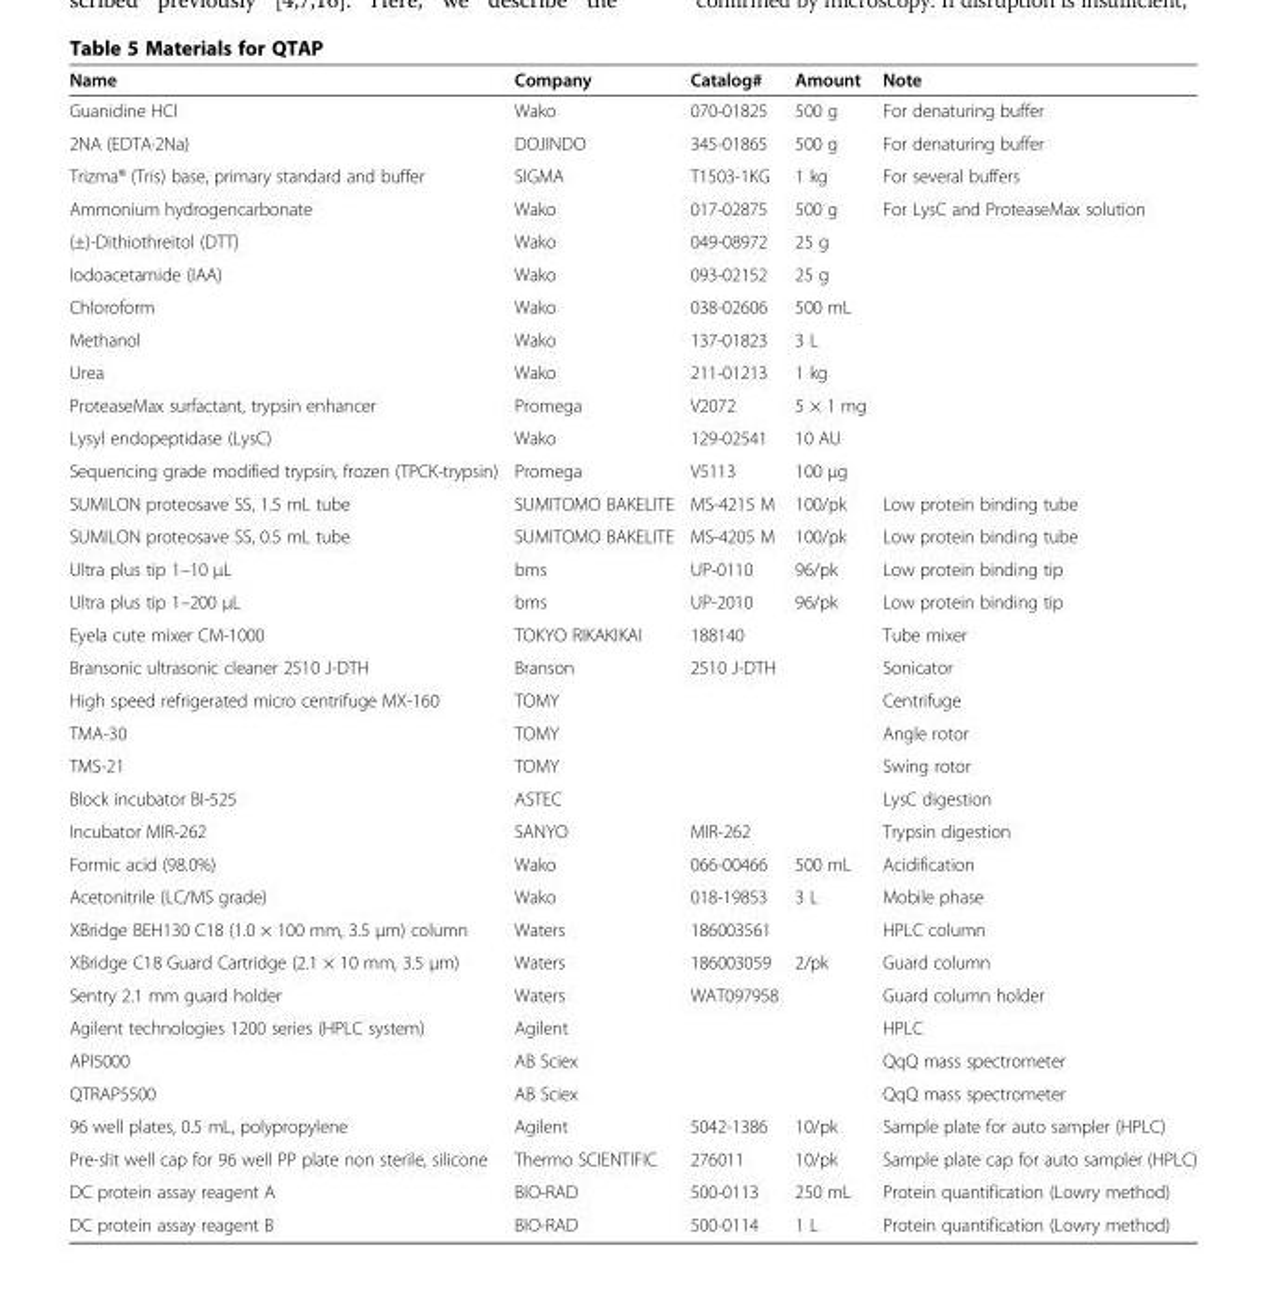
<table><thead><tr><td>Name</td><td>Company</td><td>Catalog#</td><td>Amount</td><td>Note</td></tr></thead><tbody><tr><td>Guanidine HCl</td><td>Wako</td><td>070-01825</td><td>500 g</td><td>For denaturing buffer</td></tr><tr><td>2NA (EDTA·2Na)</td><td>DOJINDO</td><td>345-01865</td><td>500 g</td><td>For denaturing buffer</td></tr><tr><td>Trizma® (Tris) base, primary standard and buffer</td><td>SIGMA</td><td>T1503-1KG</td><td>1 kg</td><td>For several buffers</td></tr><tr><td>Ammonium hydrogencarbonate</td><td>Wako</td><td>017-02875</td><td>500 g</td><td>For LysC and ProteaseMax solution</td></tr><tr><td>(±)-Dithiothreitol (DTT)</td><td>Wako</td><td>049-08972</td><td>25 g</td><td></td></tr><tr><td>Iodoacetamide (IAA)</td><td>Wako</td><td>093-02152</td><td>25 g</td><td></td></tr><tr><td>Chloroform</td><td>Wako</td><td>038-02606</td><td>500 mL</td><td></td></tr><tr><td>Methanol</td><td>Wako</td><td>137-01823</td><td>3 L</td><td></td></tr><tr><td>Urea</td><td>Wako</td><td>211-01213</td><td>1 kg</td><td></td></tr><tr><td>ProteaseMax surfactant, trypsin enhancer</td><td>Promega</td><td>V2072</td><td>5 × 1 mg</td><td></td></tr><tr><td>Lysyl endopeptidase (LysC)</td><td>Wako</td><td>129-02541</td><td>10 AU</td><td></td></tr><tr><td>Sequencing grade modified trypsin, frozen (TPCK-trypsin)</td><td>Promega</td><td>V5113</td><td>100 μg</td><td></td></tr><tr><td>SUMILON proteosave SS, 1.5 mL tube</td><td>SUMITOMO BAKELITE</td><td>MS-4215 M</td><td>100/pk</td><td>Low protein binding tube</td></tr><tr><td>SUMILON proteosave SS, 0.5 mL tube</td><td>SUMITOMO BAKELITE</td><td>MS-4205 M</td><td>100/pk</td><td>Low protein binding tube</td></tr><tr><td>Ultra plus tip 1–10 μL</td><td>bms</td><td>UP-0110</td><td>96/pk</td><td>Low protein binding tip</td></tr><tr><td>Ultra plus tip 1–200 μL</td><td>bms</td><td>UP-2010</td><td>96/pk</td><td>Low protein binding tip</td></tr><tr><td>Eyela cute mixer CM-1000</td><td>TOKYO RIKAKIKAI</td><td>188140</td><td></td><td>Tube mixer</td></tr><tr><td>Bransonic ultrasonic cleaner 2510 J-DTH</td><td>Branson</td><td>2510 J-DTH</td><td></td><td>Sonicator</td></tr><tr><td>High speed refrigerated micro centrifuge MX-160</td><td>TOMY</td><td></td><td></td><td>Centrifuge</td></tr><tr><td>TMA-30</td><td>TOMY</td><td></td><td></td><td>Angle rotor</td></tr><tr><td>TMS-21</td><td>TOMY</td><td></td><td></td><td>Swing rotor</td></tr><tr><td>Block incubator BI-525</td><td>ASTEC</td><td></td><td></td><td>LysC digestion</td></tr><tr><td>Incubator MIR-262</td><td>SANYO</td><td>MIR-262</td><td></td><td>Trypsin digestion</td></tr><tr><td>Formic acid (98.0%)</td><td>Wako</td><td>066-00466</td><td>500 mL</td><td>Acidification</td></tr><tr><td>Acetonitrile (LC/MS grade)</td><td>Wako</td><td>018-19853</td><td>3 L</td><td>Mobile phase</td></tr><tr><td>XBridge BEH130 C18 (1.0 × 100 mm, 3.5 μm) column</td><td>Waters</td><td>186003561</td><td></td><td>HPLC column</td></tr><tr><td>XBridge C18 Guard Cartridge (2.1 × 10 mm, 3.5 μm)</td><td>Waters</td><td>186003059</td><td>2/pk</td><td>Guard column</td></tr><tr><td>Sentry 2.1 mm guard holder</td><td>Waters</td><td>WAT097958</td><td></td><td>Guard column holder</td></tr><tr><td>Agilent technologies 1200 series (HPLC system)</td><td>Agilent</td><td></td><td></td><td>HPLC</td></tr><tr><td>API5000</td><td>AB Sciex</td><td></td><td></td><td>QqQ mass spectrometer</td></tr><tr><td>QTRAP5500</td><td>AB Sciex</td><td></td><td></td><td>QqQ mass spectrometer</td></tr><tr><td>96 well plates, 0.5 mL, polypropylene</td><td>Agilent</td><td>5042-1386</td><td>10/pk</td><td>Sample plate for auto sampler (HPLC)</td></tr><tr><td>Pre-slit well cap for 96 well PP plate non sterile, silicone</td><td>Thermo SCIENTIFIC</td><td>276011</td><td>10/pk</td><td>Sample plate cap for auto sampler (HPLC)</td></tr><tr><td>DC protein assay reagent A</td><td>BIO-RAD</td><td>500-0113</td><td>250 mL</td><td>Protein quantification (Lowry method)</td></tr><tr><td>DC protein assay reagent B</td><td>BIO-RAD</td><td>500-0114</td><td>1 L</td><td>Protein quantification (Lowry method)</td></tr></tbody></table>